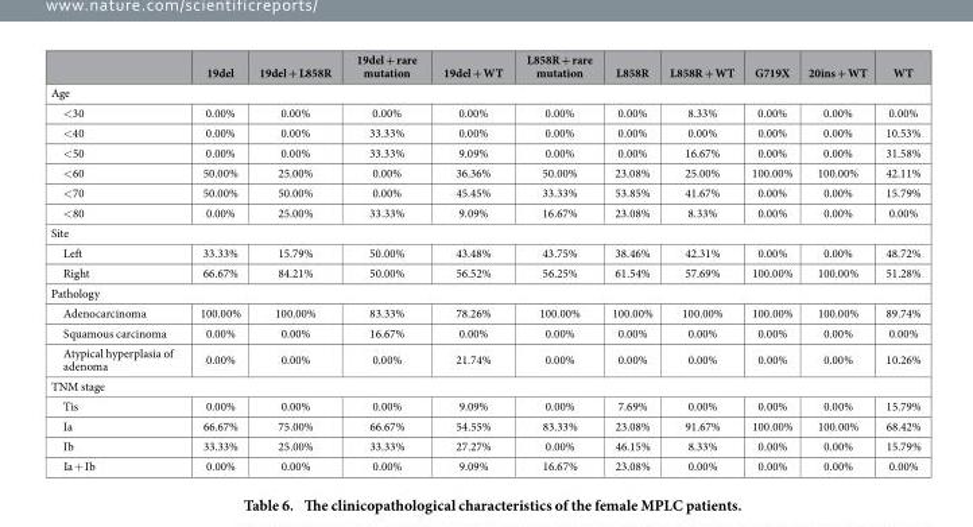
<table><thead><tr><td></td><td>19del</td><td>19del + L858R</td><td>19del + rare mutation</td><td>19del + WT</td><td>L858R + rare mutation</td><td>L858R</td><td>L858R + WT</td><td>G719X</td><td>20ins + WT</td><td>WT</td></tr></thead><tbody><tr><td colspan="11">Age</td></tr><tr><td>&lt; 30</td><td>0.00%</td><td>0.00%</td><td>0.00%</td><td>0.00%</td><td>0.00%</td><td>0.00%</td><td>8.33%</td><td>0.00%</td><td>0.00%</td><td>0.00%</td></tr><tr><td>&lt; 40</td><td>0.00%</td><td>0.00%</td><td>33.33%</td><td>0.00%</td><td>0.00%</td><td>0.00%</td><td>0.00%</td><td>0.00%</td><td>0.00%</td><td>10.53%</td></tr><tr><td>&lt; 50</td><td>0.00%</td><td>0.00%</td><td>33.33%</td><td>9.09%</td><td>0.00%</td><td>0.00%</td><td>16.67%</td><td>0.00%</td><td>0.00%</td><td>31.58%</td></tr><tr><td>&lt; 60</td><td>50.00%</td><td>25.00%</td><td>0.00%</td><td>36.36%</td><td>50.00%</td><td>23.08%</td><td>25.00%</td><td>100.00%</td><td>100.00%</td><td>42.11%</td></tr><tr><td>&lt; 70</td><td>50.00%</td><td>50.00%</td><td>0.00%</td><td>45.45%</td><td>33.33%</td><td>53.85%</td><td>41.67%</td><td>0.00%</td><td>0.00%</td><td>15.79%</td></tr><tr><td>&lt; 80</td><td>0.00%</td><td>25.00%</td><td>33.33%</td><td>9.09%</td><td>16.67%</td><td>23.08%</td><td>8.33%</td><td>0.00%</td><td>0.00%</td><td>0.00%</td></tr><tr><td colspan="11">Site</td></tr><tr><td>Left</td><td>33.33%</td><td>15.79%</td><td>50.00%</td><td>43.48%</td><td>43.75%</td><td>38.46%</td><td>42.31%</td><td>0.00%</td><td>0.00%</td><td>48.72%</td></tr><tr><td>Right</td><td>66.67%</td><td>84.21%</td><td>50.00%</td><td>56.52%</td><td>56.25%</td><td>61.54%</td><td>57.69%</td><td>100.00%</td><td>100.00%</td><td>51.28%</td></tr><tr><td colspan="11">Pathology</td></tr><tr><td>Adenocarcinoma</td><td>100.00%</td><td>100.00%</td><td>83.33%</td><td>78.26%</td><td>100.00%</td><td>100.00%</td><td>100.00%</td><td>100.00%</td><td>100.00%</td><td>89.74%</td></tr><tr><td>Squamous carcinoma</td><td>0.00%</td><td>0.00%</td><td>16.67%</td><td>0.00%</td><td>0.00%</td><td>0.00%</td><td>0.00%</td><td>0.00%</td><td>0.00%</td><td>0.00%</td></tr><tr><td>Atypical hyperplasia of adenoma</td><td>0.00%</td><td>0.00%</td><td>0.00%</td><td>21.74%</td><td>0.00%</td><td>0.00%</td><td>0.00%</td><td>0.00%</td><td>0.00%</td><td>10.26%</td></tr><tr><td colspan="11">TNM stage</td></tr><tr><td>Tis</td><td>0.00%</td><td>0.00%</td><td>0.00%</td><td>9.09%</td><td>0.00%</td><td>7.69%</td><td>0.00%</td><td>0.00%</td><td>0.00%</td><td>15.79%</td></tr><tr><td>Ia</td><td>66.67%</td><td>75.00%</td><td>66.67%</td><td>54.55%</td><td>83.33%</td><td>23.08%</td><td>91.67%</td><td>100.00%</td><td>100.00%</td><td>68.42%</td></tr><tr><td>Ib</td><td>33.33%</td><td>25.00%</td><td>33.33%</td><td>27.27%</td><td>0.00%</td><td>46.15%</td><td>8.33%</td><td>0.00%</td><td>0.00%</td><td>15.79%</td></tr><tr><td>Ia + Ib</td><td>0.00%</td><td>0.00%</td><td>0.00%</td><td>9.09%</td><td>16.67%</td><td>23.08%</td><td>0.00%</td><td>0.00%</td><td>0.00%</td><td>0.00%</td></tr></tbody></table>